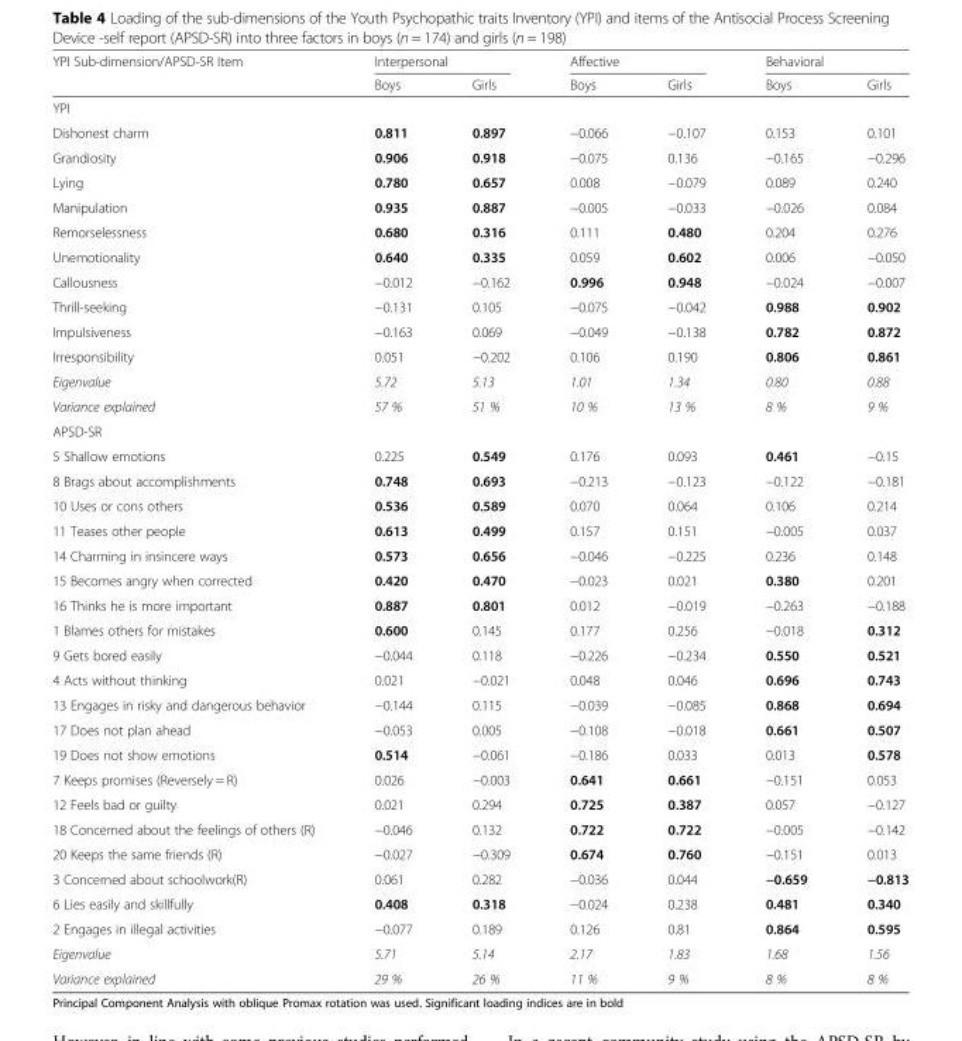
<table><thead><tr><td rowspan="2">YPI Sub-dimension/APSD-SR Item</td><td colspan="2">Interpersonal</td><td colspan="2">Affective</td><td colspan="2">Behavioral</td></tr><tr><td>Boys</td><td>Girls</td><td>Boys</td><td>Girls</td><td>Boys</td><td>Girls</td></tr></thead><tbody><tr><td colspan="7">YPI</td></tr><tr><td>Dishonest charm</td><td>0.811</td><td>0.897</td><td>−0.066</td><td>−0.107</td><td>0.153</td><td>0.101</td></tr><tr><td>Grandiosity</td><td>0.906</td><td>0.918</td><td>−0.075</td><td>0.136</td><td>−0.165</td><td>−0.296</td></tr><tr><td>Lying</td><td>0.780</td><td>0.657</td><td>0.008</td><td>−0.079</td><td>0.089</td><td>0.240</td></tr><tr><td>Manipulation</td><td>0.935</td><td>0.887</td><td>−0.005</td><td>−0.033</td><td>−0.026</td><td>0.084</td></tr><tr><td>Remorselessness</td><td>0.680</td><td>0.316</td><td>0.111</td><td>0.480</td><td>0.204</td><td>0.276</td></tr><tr><td>Unemotionality</td><td>0.640</td><td>0.335</td><td>0.059</td><td>0.602</td><td>0.006</td><td>−0.050</td></tr><tr><td>Callousness</td><td>−0.012</td><td>−0.162</td><td>0.996</td><td>0.948</td><td>−0.024</td><td>−0.007</td></tr><tr><td>Thrill-seeking</td><td>−0.131</td><td>0.105</td><td>−0.075</td><td>−0.042</td><td>0.988</td><td>0.902</td></tr><tr><td>Impulsiveness</td><td>−0.163</td><td>0.069</td><td>−0.049</td><td>−0.138</td><td>0.782</td><td>0.872</td></tr><tr><td>Irresponsibility</td><td>0.051</td><td>−0.202</td><td>0.106</td><td>0.190</td><td>0.806</td><td>0.861</td></tr><tr><td>Eigenvalue</td><td>5.72</td><td>5.13</td><td>1.01</td><td>1.34</td><td>0.80</td><td>0.88</td></tr><tr><td>Variance explained</td><td>57 %</td><td>51 %</td><td>10 %</td><td>13 %</td><td>8 %</td><td>9 %</td></tr><tr><td colspan="7">APSD-SR</td></tr><tr><td>5 Shallow emotions</td><td>0.225</td><td>0.549</td><td>0.176</td><td>0.093</td><td>0.461</td><td>−0.15</td></tr><tr><td>8 Brags about accomplishments</td><td>0.748</td><td>0.693</td><td>−0.213</td><td>−0.123</td><td>−0.122</td><td>−0.181</td></tr><tr><td>10 Uses or cons others</td><td>0.536</td><td>0.589</td><td>0.070</td><td>0.064</td><td>0.106</td><td>0.214</td></tr><tr><td>11 Teases other people</td><td>0.613</td><td>0.499</td><td>0.157</td><td>0.151</td><td>−0.005</td><td>0.037</td></tr><tr><td>14 Charming in insincere ways</td><td>0.573</td><td>0.656</td><td>−0.046</td><td>−0.225</td><td>0.236</td><td>0.148</td></tr><tr><td>15 Becomes angry when corrected</td><td>0.420</td><td>0.470</td><td>−0.023</td><td>0.021</td><td>0.380</td><td>0.201</td></tr><tr><td>16 Thinks he is more important</td><td>0.887</td><td>0.801</td><td>0.012</td><td>−0.019</td><td>−0.263</td><td>−0.188</td></tr><tr><td>1 Blames others for mistakes</td><td>0.600</td><td>0.145</td><td>0.177</td><td>0.256</td><td>−0.018</td><td>0.312</td></tr><tr><td>9 Gets bored easily</td><td>−0.044</td><td>0.118</td><td>−0.226</td><td>−0.234</td><td>0.550</td><td>0.521</td></tr><tr><td>4 Acts without thinking</td><td>0.021</td><td>−0.021</td><td>0.048</td><td>0.046</td><td>0.696</td><td>0.743</td></tr><tr><td>13 Engages in risky and dangerous behavior</td><td>−0.144</td><td>0.115</td><td>−0.039</td><td>−0.085</td><td>0.868</td><td>0.694</td></tr><tr><td>17 Does not plan ahead</td><td>−0.053</td><td>0.005</td><td>−0.108</td><td>−0.018</td><td>0.661</td><td>0.507</td></tr><tr><td>19 Does not show emotions</td><td>0.514</td><td>−0.061</td><td>−0.186</td><td>0.033</td><td>0.013</td><td>0.578</td></tr><tr><td>7 Keeps promises (Reversely = R)</td><td>0.026</td><td>−0.003</td><td>0.641</td><td>0.661</td><td>−0.151</td><td>0.053</td></tr><tr><td>12 Feels bad or guilty</td><td>0.021</td><td>0.294</td><td>0.725</td><td>0.387</td><td>0.057</td><td>−0.127</td></tr><tr><td>18 Concerned about the feelings of others (R)</td><td>−0.046</td><td>0.132</td><td>0.722</td><td>0.722</td><td>−0.005</td><td>−0.142</td></tr><tr><td>20 Keeps the same friends (R)</td><td>−0.027</td><td>−0.309</td><td>0.674</td><td>0.760</td><td>−0.151</td><td>0.013</td></tr><tr><td>3 Concerned about schoolwork(R)</td><td>0.061</td><td>0.282</td><td>−0.036</td><td>0.044</td><td>−0.659</td><td>−0.813</td></tr><tr><td>6 Lies easily and skillfully</td><td>0.408</td><td>0.318</td><td>−0.024</td><td>0.238</td><td>0.481</td><td>0.340</td></tr><tr><td>2 Engages in illegal activities</td><td>−0.077</td><td>0.189</td><td>0.126</td><td>0.81</td><td>0.864</td><td>0.595</td></tr><tr><td>Eigenvalue</td><td>5.71</td><td>5.14</td><td>2.17</td><td>1.83</td><td>1.68</td><td>1.56</td></tr><tr><td>Variance explained</td><td>29 %</td><td>26 %</td><td>11 %</td><td>9 %</td><td>8 %</td><td>8 %</td></tr></tbody></table>